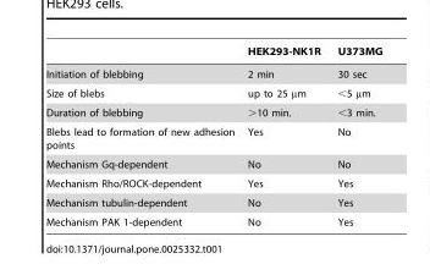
<table><thead><tr><td></td><td>HEK293-NK1R</td><td>U373MG</td></tr></thead><tbody><tr><td>Initiation of blebbing</td><td>2 min</td><td>30 sec</td></tr><tr><td>Size of blebs</td><td>up to 25 µm</td><td>&lt;5 µm</td></tr><tr><td>Duration of blebbing</td><td>&gt;10 min.</td><td>&lt;3 min.</td></tr><tr><td>Blebs lead to formation of new adhesion points</td><td>Yes</td><td>No</td></tr><tr><td>Mechanism Gq-dependent</td><td>No</td><td>No</td></tr><tr><td>Mechanism Rho/ROCK-dependent</td><td>Yes</td><td>Yes</td></tr><tr><td>Mechanism tubulin-dependent</td><td>No</td><td>Yes</td></tr><tr><td>Mechanism PAK 1-dependent</td><td>No</td><td>Yes</td></tr></tbody></table>